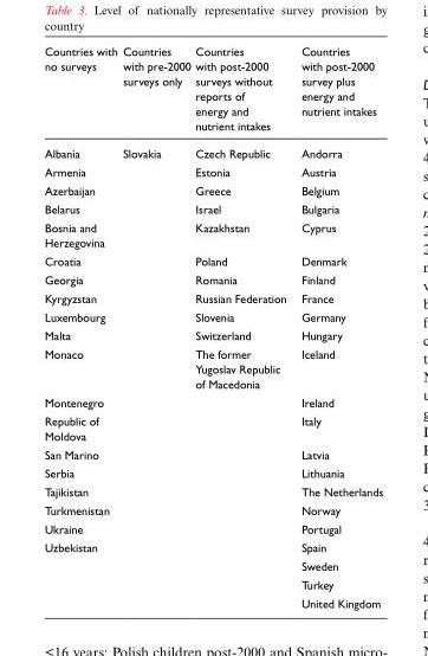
<table><thead><tr><td>Countries with no surveys</td><td>Countries with pre-2000 surveys only</td><td>Countries with post-2000 surveys without reports of energy and nutrient intakes</td><td>Countries with post-2000 survey plus energy and nutrient intakes</td></tr></thead><tbody><tr><td>Albania</td><td>Slovakia</td><td>Czech Republic</td><td>Andorra</td></tr><tr><td>Armenia</td><td></td><td>Estonia</td><td>Austria</td></tr><tr><td>Azerbaijan</td><td></td><td>Greece</td><td>Belgium</td></tr><tr><td>Belarus</td><td></td><td>Israel</td><td>Bulgaria</td></tr><tr><td>Bosnia and Herzegovina</td><td></td><td>Kazakhstan</td><td>Cyprus</td></tr><tr><td>Croatia</td><td></td><td>Poland</td><td>Denmark</td></tr><tr><td>Georgia</td><td></td><td>Romania</td><td>Finland</td></tr><tr><td>Kyrgyzstan</td><td></td><td>Russian Federation</td><td>France</td></tr><tr><td>Luxembourg</td><td></td><td>Slovenia</td><td>Germany</td></tr><tr><td>Malta</td><td></td><td>Switzerland</td><td>Hungary</td></tr><tr><td>Monaco</td><td></td><td>The former Yugoslav Republic of Macedonia</td><td>Iceland</td></tr><tr><td>Montenegro</td><td></td><td></td><td>Ireland</td></tr><tr><td>Republic of Moldova</td><td></td><td></td><td>Italy</td></tr><tr><td>San Marino</td><td></td><td></td><td>Latvia</td></tr><tr><td>Serbia</td><td></td><td></td><td>Lithuania</td></tr><tr><td>Tajikistan</td><td></td><td></td><td>The Netherlands</td></tr><tr><td>Turkmenistan</td><td></td><td></td><td>Norway</td></tr><tr><td>Ukraine</td><td></td><td></td><td>Portugal</td></tr><tr><td rowspan="4">Uzbekistan</td><td></td><td></td><td>Spain</td></tr><tr><td></td><td></td><td>Sweden</td></tr><tr><td></td><td></td><td>Turkey</td></tr><tr><td></td><td></td><td>United Kingdom</td></tr></tbody></table>